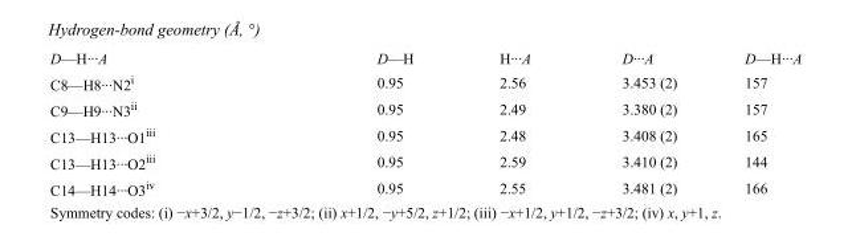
<table><tbody><tr><td>D—H···A</td><td>D—H</td><td>H···A</td><td>D···A</td><td>D—H···A</td></tr><tr><td>C8—H8···N2<sup>i</sup></td><td>0.95</td><td>2.56</td><td>3.453 (2)</td><td>157</td></tr><tr><td>C9—H9···N3<sup>ii</sup></td><td>0.95</td><td>2.49</td><td>3.380 (2)</td><td>157</td></tr><tr><td>C13—H13···O1<sup>iii</sup></td><td>0.95</td><td>2.48</td><td>3.408 (2)</td><td>165</td></tr><tr><td>C13—H13···O2<sup>iii</sup></td><td>0.95</td><td>2.59</td><td>3.410 (2)</td><td>144</td></tr><tr><td>C14—H14···O3<sup>iv</sup></td><td>0.95</td><td>2.55</td><td>3.481 (2)</td><td>166</td></tr></tbody></table>